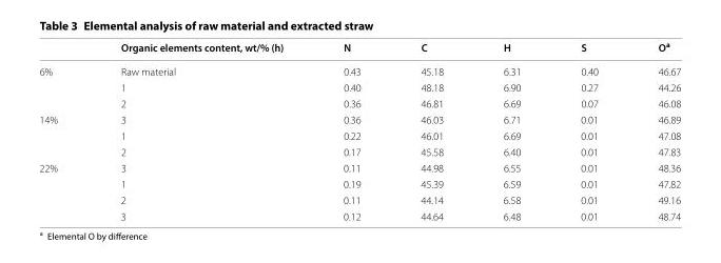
<table><thead><tr><td></td><td>Organic elements content, wt/% (h)</td><td>N</td><td>C</td><td>H</td><td>S</td><td>O<sup>a</sup></td></tr></thead><tbody><tr><td rowspan="3">6%</td><td>Raw material</td><td>0.43</td><td>45.18</td><td>6.31</td><td>0.40</td><td>46.67</td></tr><tr><td>1</td><td>0.40</td><td>48.18</td><td>6.90</td><td>0.27</td><td>44.26</td></tr><tr><td>2</td><td>0.36</td><td>46.81</td><td>6.69</td><td>0.07</td><td>46.08</td></tr><tr><td rowspan="3">14%</td><td>3</td><td>0.36</td><td>46.03</td><td>6.71</td><td>0.01</td><td>46.89</td></tr><tr><td>1</td><td>0.22</td><td>46.01</td><td>6.69</td><td>0.01</td><td>47.08</td></tr><tr><td>2</td><td>0.17</td><td>45.58</td><td>6.40</td><td>0.01</td><td>47.83</td></tr><tr><td rowspan="4">22%</td><td>3</td><td>0.11</td><td>44.98</td><td>6.55</td><td>0.01</td><td>48.36</td></tr><tr><td>1</td><td>0.19</td><td>45.39</td><td>6.59</td><td>0.01</td><td>47.82</td></tr><tr><td>2</td><td>0.11</td><td>44.14</td><td>6.58</td><td>0.01</td><td>49.16</td></tr><tr><td>3</td><td>0.12</td><td>44.64</td><td>6.48</td><td>0.01</td><td>48.74</td></tr></tbody></table>